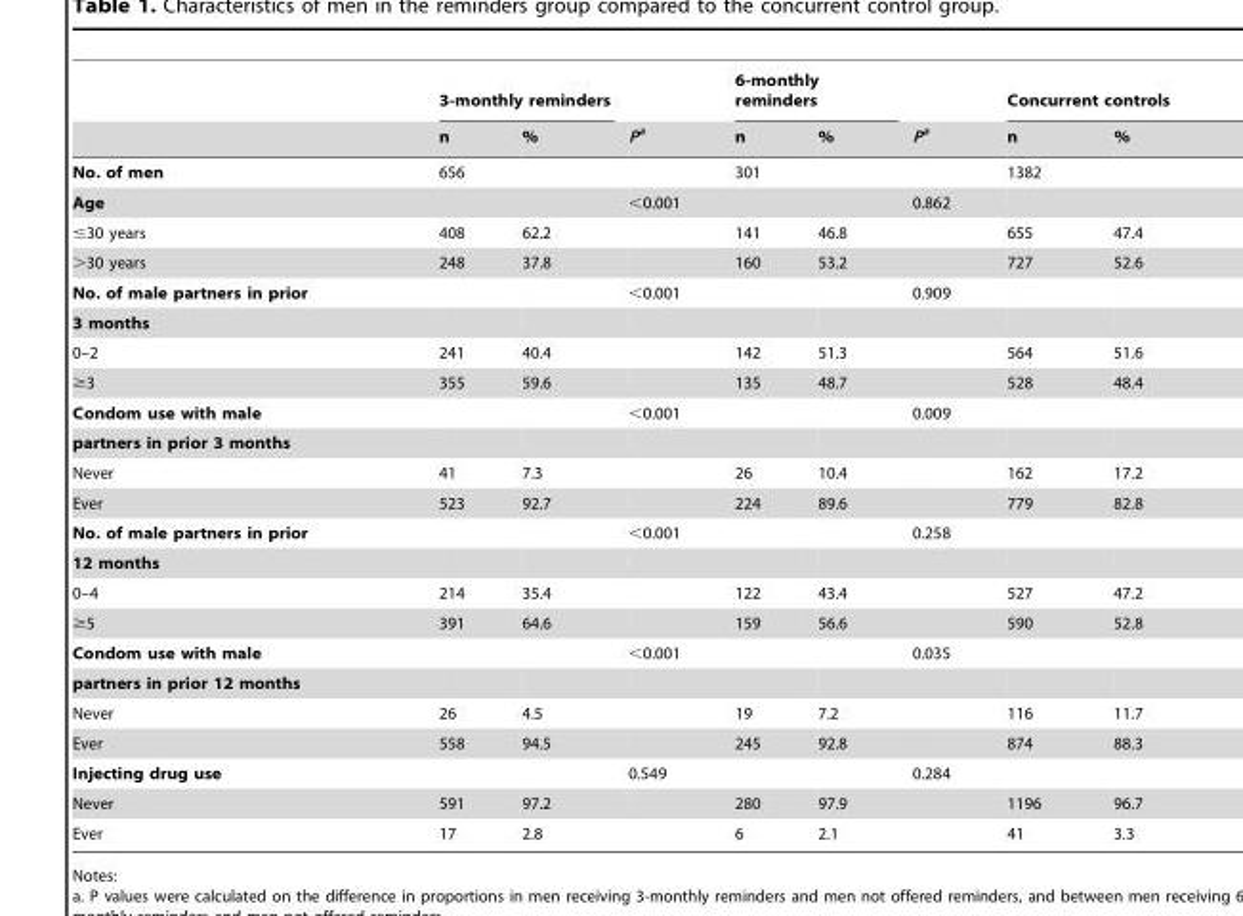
<table><thead><tr><td rowspan="2"></td><td colspan="2">3-monthly reminders</td><td rowspan="2">P<sup>a</sup></td><td colspan="2">6-monthly reminders</td><td rowspan="2">P<sup>a</sup></td><td colspan="2">Concurrent controls</td></tr><tr><td>n</td><td>%</td><td>n</td><td>%</td><td>n</td><td>%</td></tr></thead><tbody><tr><td>No. of men</td><td>656</td><td></td><td></td><td>301</td><td></td><td></td><td>1382</td><td></td></tr><tr><td>Age</td><td colspan="2"></td><td>&lt;0.001</td><td colspan="2"></td><td>0.862</td><td colspan="2"></td></tr><tr><td>≤30 years</td><td>408</td><td>62.2</td><td></td><td>141</td><td>46.8</td><td></td><td>655</td><td>47.4</td></tr><tr><td>&gt;30 years</td><td>248</td><td>37.8</td><td></td><td>160</td><td>53.2</td><td></td><td>727</td><td>52.6</td></tr><tr><td>No. of male partners in prior</td><td></td><td></td><td>&lt;0.001</td><td></td><td></td><td>0.909</td><td></td><td></td></tr><tr><td colspan="9">3 months</td></tr><tr><td>0–2</td><td>241</td><td>40.4</td><td></td><td>142</td><td>51.3</td><td></td><td>564</td><td>51.6</td></tr><tr><td>≥3</td><td>355</td><td>59.6</td><td></td><td>135</td><td>48.7</td><td></td><td>528</td><td>48.4</td></tr><tr><td>Condom use with male</td><td></td><td></td><td>&lt;0.001</td><td></td><td></td><td>0.009</td><td></td><td></td></tr><tr><td colspan="9">partners in prior 3 months</td></tr><tr><td>Never</td><td>41</td><td>7.3</td><td></td><td>26</td><td>10.4</td><td></td><td>162</td><td>17.2</td></tr><tr><td>Ever</td><td>523</td><td>92.7</td><td></td><td>224</td><td>89.6</td><td></td><td>779</td><td>82.8</td></tr><tr><td>No. of male partners in prior</td><td></td><td></td><td>&lt;0.001</td><td></td><td></td><td>0.258</td><td></td><td></td></tr><tr><td colspan="9">12 months</td></tr><tr><td>0–4</td><td>214</td><td>35.4</td><td></td><td>122</td><td>43.4</td><td></td><td>527</td><td>47.2</td></tr><tr><td>≥5</td><td>391</td><td>64.6</td><td></td><td>159</td><td>56.6</td><td></td><td>590</td><td>52.8</td></tr><tr><td>Condom use with male</td><td></td><td></td><td>&lt;0.001</td><td></td><td></td><td>0.035</td><td></td><td></td></tr><tr><td colspan="9">partners in prior 12 months</td></tr><tr><td>Never</td><td>26</td><td>4.5</td><td></td><td>19</td><td>7.2</td><td></td><td>116</td><td>11.7</td></tr><tr><td>Ever</td><td>558</td><td>94.5</td><td></td><td>245</td><td>92.8</td><td></td><td>874</td><td>88.3</td></tr><tr><td>Injecting drug use</td><td></td><td></td><td>0.549</td><td></td><td></td><td>0.284</td><td></td><td></td></tr><tr><td>Never</td><td>591</td><td>97.2</td><td></td><td>280</td><td>97.9</td><td></td><td>1196</td><td>96.7</td></tr><tr><td>Ever</td><td>17</td><td>2.8</td><td></td><td>6</td><td>2.1</td><td></td><td>41</td><td>3.3</td></tr></tbody></table>